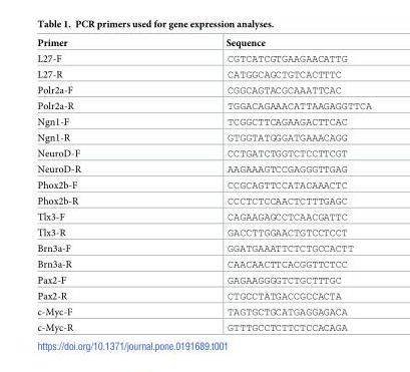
<table><thead><tr><td>Primer</td><td>Sequence</td></tr></thead><tbody><tr><td>L27-F</td><td>CGTCATCGTGAAGAACATTG</td></tr><tr><td>L27-R</td><td>CATGGCAGCTGTCACTTTC</td></tr><tr><td>Polr2a-F</td><td>CGGCAGTACGCAAATTCAC</td></tr><tr><td>Polr2a-R</td><td>TGGACAGAAACATTAAGAGGTTCA</td></tr><tr><td>Ngn1-F</td><td>TCGGCTTCAGAAGACTTCAC</td></tr><tr><td>Ngn1-R</td><td>GTGGTATGGGATGAAACAGG</td></tr><tr><td>NeuroD-F</td><td>CCTGATCTGGTCTCCTTCGT</td></tr><tr><td>NeuroD-R</td><td>AAGAAAGTCCGAGGGTTGAG</td></tr><tr><td>Phox2b-F</td><td>CCGCAGTTCCATACAAACTC</td></tr><tr><td>Phox2b-R</td><td>CCCTCTCCAACTCTTTGAGC</td></tr><tr><td>Tlx3-F</td><td>CAGAAGAGCCTCAACGATTC</td></tr><tr><td>Tlx3-R</td><td>GACCTTGGAACTGTCCTCCT</td></tr><tr><td>Brn3a-F</td><td>GGATGAAATTCTCTGCCACTT</td></tr><tr><td>Brn3a-R</td><td>CAACAACTTCACGGTTCTCC</td></tr><tr><td>Pax2-F</td><td>GAGAAGGGGTCTGCTTTGC</td></tr><tr><td>Pax2-R</td><td>CTGCCTATGACCGCCACTA</td></tr><tr><td>c-Myc-F</td><td>TAGTGCTGCATGAGGAGACA</td></tr><tr><td>c-Myc-R</td><td>GTTTGCCTCTTCTCCACAGA</td></tr></tbody></table>